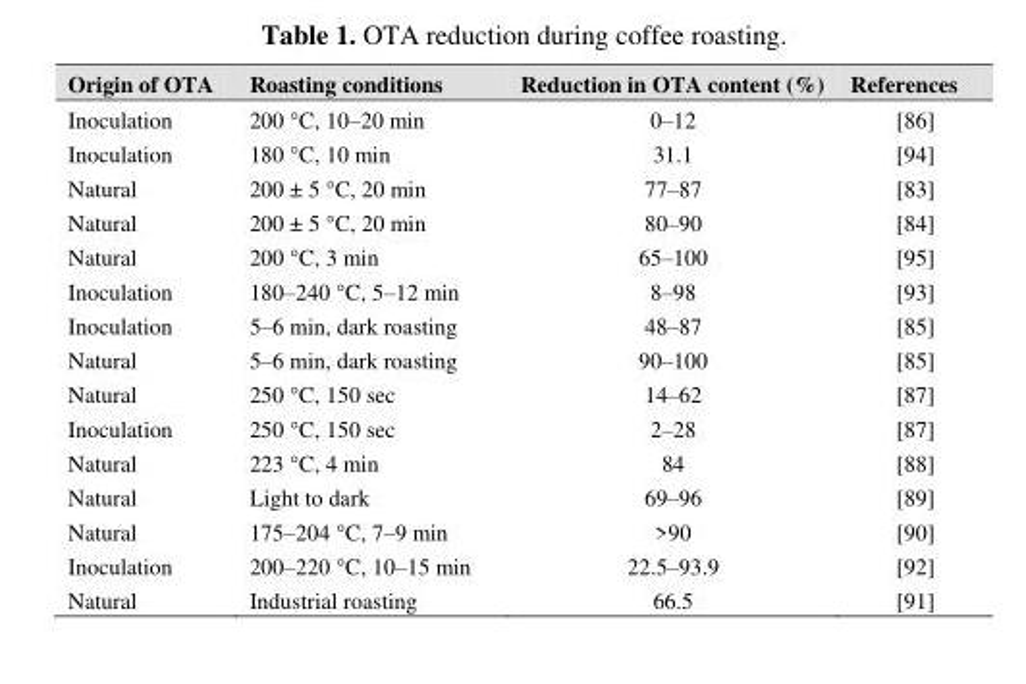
<table><thead><tr><td>Origin of OTA</td><td>Roasting conditions</td><td>Reduction in OTA content (%)</td><td>References</td></tr></thead><tbody><tr><td>Inoculation</td><td>200 °C, 10–20 min</td><td>0–12</td><td>[86]</td></tr><tr><td>Inoculation</td><td>180 °C, 10 min</td><td>31.1</td><td>[94]</td></tr><tr><td>Natural</td><td>200 ± 5 °C, 20 min</td><td>77–87</td><td>[83]</td></tr><tr><td>Natural</td><td>200 ± 5 °C, 20 min</td><td>80–90</td><td>[84]</td></tr><tr><td>Natural</td><td>200 °C, 3 min</td><td>65–100</td><td>[95]</td></tr><tr><td>Inoculation</td><td>180–240 °C, 5–12 min</td><td>8–98</td><td>[93]</td></tr><tr><td>Inoculation</td><td>5–6 min, dark roasting</td><td>48–87</td><td>[85]</td></tr><tr><td>Natural</td><td>5–6 min, dark roasting</td><td>90–100</td><td>[85]</td></tr><tr><td>Natural</td><td>250 °C, 150 sec</td><td>14–62</td><td>[87]</td></tr><tr><td>Inoculation</td><td>250 °C, 150 sec</td><td>2–28</td><td>[87]</td></tr><tr><td>Natural</td><td>223 °C, 4 min</td><td>84</td><td>[88]</td></tr><tr><td>Natural</td><td>Light to dark</td><td>69–96</td><td>[89]</td></tr><tr><td>Natural</td><td>175–204 °C, 7–9 min</td><td>&gt;90</td><td>[90]</td></tr><tr><td>Inoculation</td><td>200–220 °C, 10–15 min</td><td>22.5–93.9</td><td>[92]</td></tr><tr><td>Natural</td><td>Industrial roasting</td><td>66.5</td><td>[91]</td></tr></tbody></table>